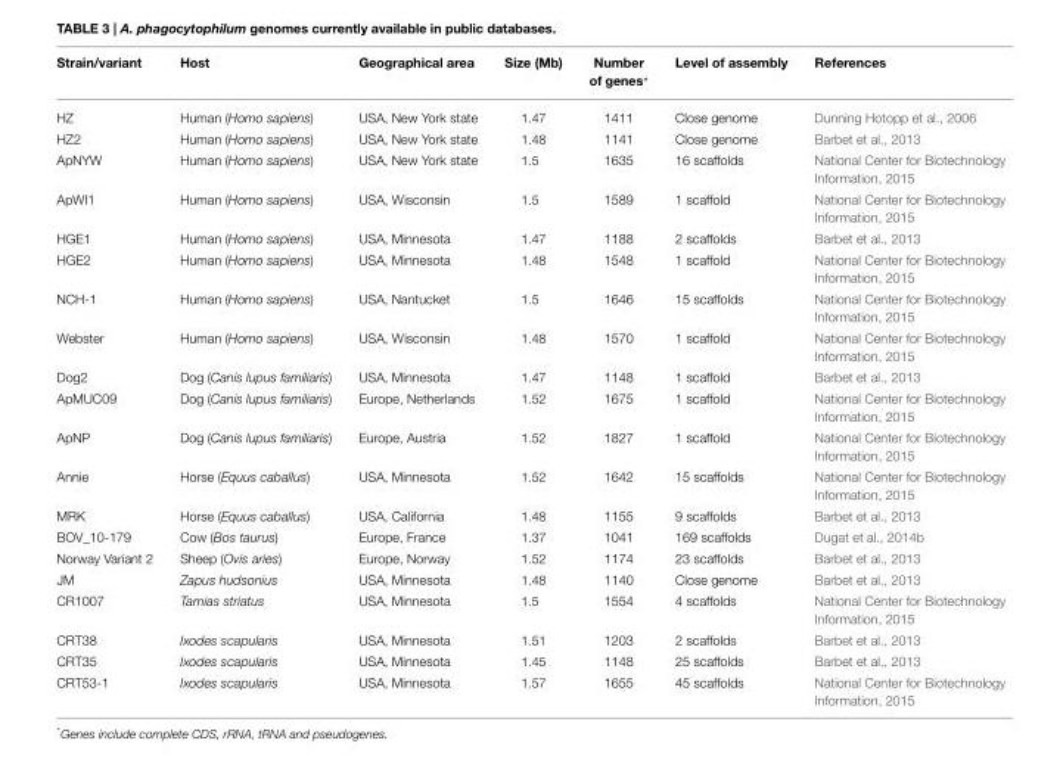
<table><thead><tr><td>Strain/variant</td><td>Host</td><td>Geographical area</td><td>Size (Mb)</td><td>Number of genes*</td><td>Level of assembly</td><td>References</td></tr></thead><tbody><tr><td>HZ</td><td>Human (Homo sapiens)</td><td>USA, New York state</td><td>1.47</td><td>1411</td><td>Close genome</td><td>Dunning Hotopp et al., 2006</td></tr><tr><td>HZ2</td><td>Human (Homo sapiens)</td><td>USA, New York state</td><td>1.48</td><td>1141</td><td>Close genome</td><td>Barbet et al., 2013</td></tr><tr><td>ApNYW</td><td>Human (Homo sapiens)</td><td>USA, New York state</td><td>1.5</td><td>1635</td><td>16 scaffolds</td><td>National Center for Biotechnology Information, 2015</td></tr><tr><td>ApWI1</td><td>Human (Homo sapiens)</td><td>USA, Wisconsin</td><td>1.5</td><td>1589</td><td>1 scaffold</td><td>National Center for Biotechnology Information, 2015</td></tr><tr><td>HGE1</td><td>Human (Homo sapiens)</td><td>USA, Minnesota</td><td>1.47</td><td>1188</td><td>2 scaffolds</td><td>Barbet et al., 2013</td></tr><tr><td>HGE2</td><td>Human (Homo sapiens)</td><td>USA, Minnesota</td><td>1.48</td><td>1548</td><td>1 scaffold</td><td>National Center for Biotechnology Information, 2015</td></tr><tr><td>NCH-1</td><td>Human (Homo sapiens)</td><td>USA, Nantucket</td><td>1.5</td><td>1646</td><td>15 scaffolds</td><td>National Center for Biotechnology Information, 2015</td></tr><tr><td>Webster</td><td>Human (Homo sapiens)</td><td>USA, Wisconsin</td><td>1.48</td><td>1570</td><td>1 scaffold</td><td>National Center for Biotechnology Information, 2015</td></tr><tr><td>Dog2</td><td>Dog (Canis lupus familiaris)</td><td>USA, Minnesota</td><td>1.47</td><td>1148</td><td>1 scaffold</td><td>Barbet et al., 2013</td></tr><tr><td>ApMUC09</td><td>Dog (Canis lupus familiaris)</td><td>Europe, Netherlands</td><td>1.52</td><td>1675</td><td>1 scaffold</td><td>National Center for Biotechnology Information, 2015</td></tr><tr><td>ApNP</td><td>Dog (Canis lupus familiaris)</td><td>Europe, Austria</td><td>1.52</td><td>1827</td><td>1 scaffold</td><td>National Center for Biotechnology Information, 2015</td></tr><tr><td>Annie</td><td>Horse (Equus caballus)</td><td>USA, Minnesota</td><td>1.52</td><td>1642</td><td>15 scaffolds</td><td>National Center for Biotechnology Information, 2015</td></tr><tr><td>MRK</td><td>Horse (Equus caballus)</td><td>USA, California</td><td>1.48</td><td>1155</td><td>9 scaffolds</td><td>Barbet et al., 2013</td></tr><tr><td>BOV_10-179</td><td>Cow (Bos taurus)</td><td>Europe, France</td><td>1.37</td><td>1041</td><td>169 scaffolds</td><td>Dugat et al., 2014b</td></tr><tr><td>Norway Variant 2</td><td>Sheep (Ovis aries)</td><td>Europe, Norway</td><td>1.52</td><td>1174</td><td>23 scaffolds</td><td>Barbet et al., 2013</td></tr><tr><td>JM</td><td>Zapus hudsonius</td><td>USA, Minnesota</td><td>1.48</td><td>1140</td><td>Close genome</td><td>Barbet et al., 2013</td></tr><tr><td>CR1007</td><td>Tamias striatus</td><td>USA, Minnesota</td><td>1.5</td><td>1554</td><td>4 scaffolds</td><td>National Center for Biotechnology Information, 2015</td></tr><tr><td>CRT38</td><td>Ixodes scapularis</td><td>USA, Minnesota</td><td>1.51</td><td>1203</td><td>2 scaffolds</td><td>Barbet et al., 2013</td></tr><tr><td>CRT35</td><td>Ixodes scapularis</td><td>USA, Minnesota</td><td>1.45</td><td>1148</td><td>25 scaffolds</td><td>Barbet et al., 2013</td></tr><tr><td>CRT53-1</td><td>Ixodes scapularis</td><td>USA, Minnesota</td><td>1.57</td><td>1655</td><td>45 scaffolds</td><td>National Center for Biotechnology Information, 2015</td></tr></tbody></table>